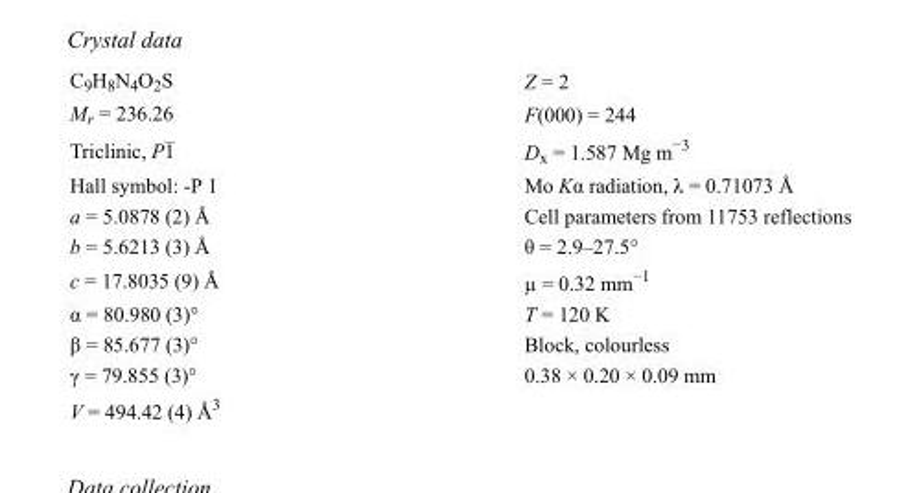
<table><tbody><tr><td>C<sub>9</sub>H<sub>8</sub>N<sub>4</sub>O<sub>2</sub>S</td><td>Z = 2</td></tr><tr><td>M<sub>r</sub> = 236.26</td><td>F(000) = 244</td></tr><tr><td>Triclinic, P1</td><td>D<sub>x</sub> = 1.587 Mg m<sup>−3</sup></td></tr><tr><td>Hall symbol: -P 1</td><td>Mo Kα radiation, λ = 0.71073 Å</td></tr><tr><td>a = 5.0878 (2) Å</td><td>Cell parameters from 11753 reflections</td></tr><tr><td>b = 5.6213 (3) Å</td><td>θ = 2.9–27.5°</td></tr><tr><td>c = 17.8035 (9) Å</td><td>µ = 0.32 mm<sup>−1</sup></td></tr><tr><td>α = 80.980 (3)°</td><td>T = 120 K</td></tr><tr><td>β = 85.677 (3)°</td><td>Block, colourless</td></tr><tr><td>γ = 79.855 (3)°</td><td>0.38 × 0.20 × 0.09 mm</td></tr><tr><td>V = 494.42 (4) Å<sup>3</sup></td><td></td></tr></tbody></table>